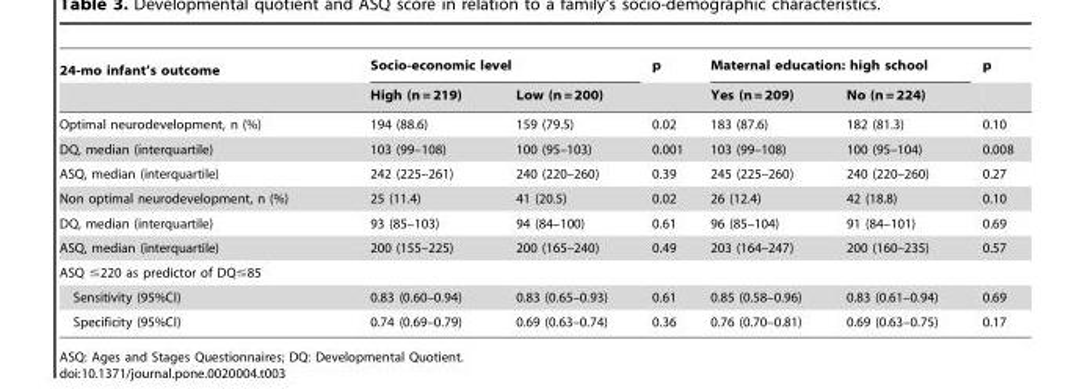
<table><thead><tr><td rowspan="2">24-mo infant’s outcome</td><td colspan="2">Socio-economic level</td><td rowspan="2">p</td><td colspan="2">Maternal education: high school</td><td rowspan="2">p</td></tr><tr><td>High (n = 219)</td><td>Low (n = 200)</td><td>Yes (n = 209)</td><td>No (n = 224)</td></tr></thead><tbody><tr><td>Optimal neurodevelopment, n (%)</td><td>194 (88.6)</td><td>159 (79.5)</td><td>0.02</td><td>183 (87.6)</td><td>182 (81.3)</td><td>0.10</td></tr><tr><td>DQ, median (interquartile)</td><td>103 (99–108)</td><td>100 (95–103)</td><td>0.001</td><td>103 (99–108)</td><td>100 (95–104)</td><td>0.008</td></tr><tr><td>ASQ, median (interquartile)</td><td>242 (225–261)</td><td>240 (220–260)</td><td>0.39</td><td>245 (225–260)</td><td>240 (220–260)</td><td>0.27</td></tr><tr><td>Non optimal neurodevelopment, n (%)</td><td>25 (11.4)</td><td>41 (20.5)</td><td>0.02</td><td>26 (12.4)</td><td>42 (18.8)</td><td>0.10</td></tr><tr><td>DQ, median (interquartile)</td><td>93 (85–103)</td><td>94 (84–100)</td><td>0.61</td><td>96 (85–104)</td><td>91 (84–101)</td><td>0.69</td></tr><tr><td>ASQ, median (interquartile)</td><td>200 (155–225)</td><td>200 (165–240)</td><td>0.49</td><td>203 (164–247)</td><td>200 (160–235)</td><td>0.57</td></tr><tr><td colspan="7">ASQ ≤220 as predictor of DQ≤85</td></tr><tr><td>Sensitivity (95%CI)</td><td>0.83 (0.60–0.94)</td><td>0.83 (0.65–0.93)</td><td>0.61</td><td>0.85 (0.58–0.96)</td><td>0.83 (0.61–0.94)</td><td>0.69</td></tr><tr><td>Specificity (95%CI)</td><td>0.74 (0.69–0.79)</td><td>0.69 (0.63–0.74)</td><td>0.36</td><td>0.76 (0.70–0.81)</td><td>0.69 (0.63–0.75)</td><td>0.17</td></tr></tbody></table>